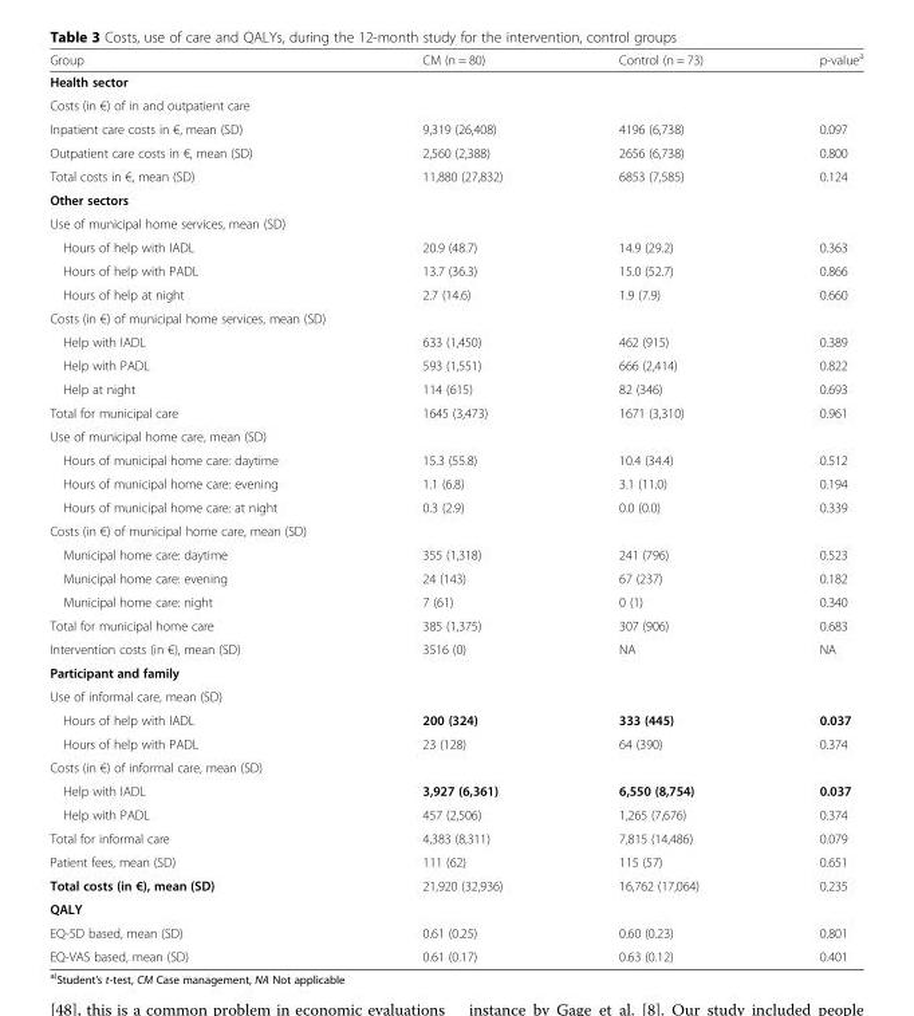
<table><thead><tr><td>Group</td><td>CM (n = 80)</td><td>Control (n = 73)</td><td>p-value<sup>a</sup></td></tr></thead><tbody><tr><td colspan="4">Health sector</td></tr><tr><td colspan="4">Costs (in €) of in and outpatient care</td></tr><tr><td>Inpatient care costs in €, mean (SD)</td><td>9,319 (26,408)</td><td>4196 (6,738)</td><td>0.097</td></tr><tr><td>Outpatient care costs in €, mean (SD)</td><td>2,560 (2,388)</td><td>2656 (6,738)</td><td>0.800</td></tr><tr><td>Total costs in €, mean (SD)</td><td>11,880 (27,832)</td><td>6853 (7,585)</td><td>0.124</td></tr><tr><td colspan="4">Other sectors</td></tr><tr><td colspan="4">Use of municipal home services, mean (SD)</td></tr><tr><td>Hours of help with IADL</td><td>20.9 (48.7)</td><td>14.9 (29.2)</td><td>0.363</td></tr><tr><td>Hours of help with PADL</td><td>13.7 (36.3)</td><td>15.0 (52.7)</td><td>0.866</td></tr><tr><td>Hours of help at night</td><td>2.7 (14.6)</td><td>1.9 (7.9)</td><td>0.660</td></tr><tr><td colspan="4">Costs (in €) of municipal home services, mean (SD)</td></tr><tr><td>Help with IADL</td><td>633 (1,450)</td><td>462 (915)</td><td>0.389</td></tr><tr><td>Help with PADL</td><td>593 (1,551)</td><td>666 (2,414)</td><td>0.822</td></tr><tr><td>Help at night</td><td>114 (615)</td><td>82 (346)</td><td>0.693</td></tr><tr><td>Total for municipal care</td><td>1645 (3,473)</td><td>1671 (3,310)</td><td>0.961</td></tr><tr><td colspan="4">Use of municipal home care, mean (SD)</td></tr><tr><td>Hours of municipal home care: daytime</td><td>15.3 (55.8)</td><td>10.4 (34.4)</td><td>0.512</td></tr><tr><td>Hours of municipal home care: evening</td><td>1.1 (6.8)</td><td>3.1 (11.0)</td><td>0.194</td></tr><tr><td>Hours of municipal home care: at night</td><td>0.3 (2.9)</td><td>0.0 (0.0)</td><td>0.339</td></tr><tr><td colspan="4">Costs (in €) of municipal home care, mean (SD)</td></tr><tr><td>Municipal home care: daytime</td><td>355 (1,318)</td><td>241 (796)</td><td>0.523</td></tr><tr><td>Municipal home care: evening</td><td>24 (143)</td><td>67 (237)</td><td>0.182</td></tr><tr><td>Municipal home care: night</td><td>7 (61)</td><td>0 (1)</td><td>0.340</td></tr><tr><td>Total for municipal home care</td><td>385 (1,375)</td><td>307 (906)</td><td>0.683</td></tr><tr><td>Intervention costs (in €), mean (SD)</td><td>3516 (0)</td><td>NA</td><td>NA</td></tr><tr><td colspan="4">Participant and family</td></tr><tr><td colspan="4">Use of informal care, mean (SD)</td></tr><tr><td>Hours of help with IADL</td><td>200 (324)</td><td>333 (445)</td><td>0.037</td></tr><tr><td>Hours of help with PADL</td><td>23 (128)</td><td>64 (390)</td><td>0.374</td></tr><tr><td colspan="4">Costs (in €) of informal care, mean (SD)</td></tr><tr><td>Help with IADL</td><td>3,927 (6,361)</td><td>6,550 (8,754)</td><td>0.037</td></tr><tr><td>Help with PADL</td><td>457 (2,506)</td><td>1,265 (7,676)</td><td>0.374</td></tr><tr><td>Total for informal care</td><td>4,383 (8,311)</td><td>7,815 (14,486)</td><td>0.079</td></tr><tr><td>Patient fees, mean (SD)</td><td>111 (62)</td><td>115 (57)</td><td>0.651</td></tr><tr><td>Total costs (in €), mean (SD)</td><td>21,920 (32,936)</td><td>16,762 (17,064)</td><td>0.235</td></tr><tr><td colspan="4">QALY</td></tr><tr><td>EQ-5D based, mean (SD)</td><td>0.61 (0.25)</td><td>0.60 (0.23)</td><td>0.801</td></tr><tr><td>EQ-VAS based, mean (SD)</td><td>0.61 (0.17)</td><td>0.63 (0.12)</td><td>0.401</td></tr></tbody></table>